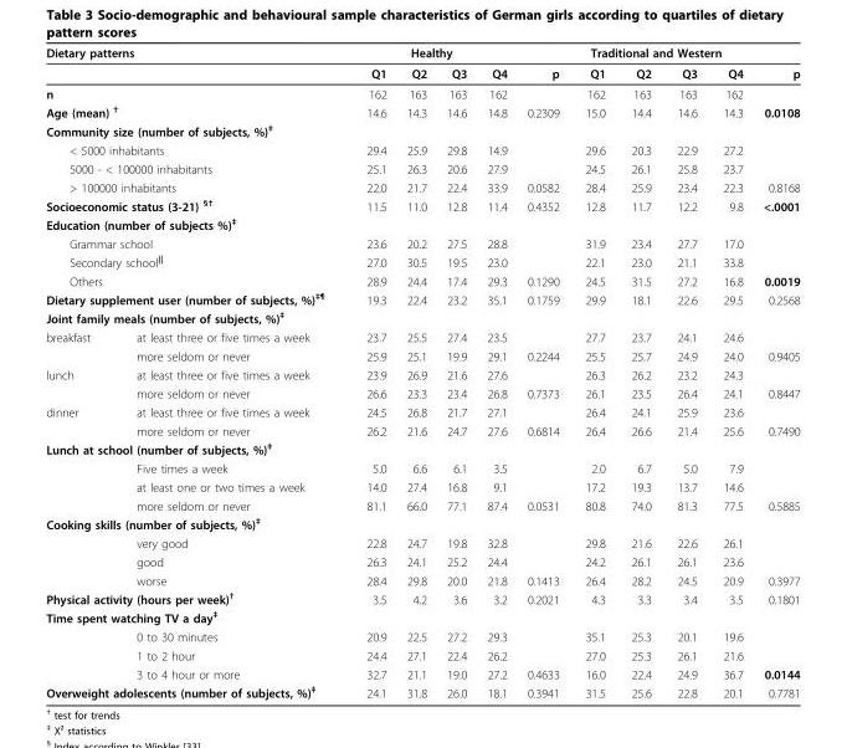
<table><thead><tr><td colspan="2">Dietary patterns</td><td colspan="4">Healthy</td><td></td><td colspan="4">Traditional and Western</td><td></td></tr></thead><tbody><tr><td colspan="2"></td><td>Q1</td><td>Q2</td><td>Q3</td><td>Q4</td><td>p</td><td>Q1</td><td>Q2</td><td>Q3</td><td>Q4</td><td>p</td></tr><tr><td colspan="2">n</td><td>162</td><td>163</td><td>163</td><td>162</td><td></td><td>162</td><td>163</td><td>163</td><td>162</td><td></td></tr><tr><td colspan="2">Age (mean) <sup>†</sup></td><td>14.6</td><td>14.3</td><td>14.6</td><td>14.8</td><td>0.2309</td><td>15.0</td><td>14.4</td><td>14.6</td><td>14.3</td><td>0.0108</td></tr><tr><td colspan="12">Community size (number of subjects, %)<sup>‡</sup></td></tr><tr><td colspan="2">&lt; 5000 inhabitants</td><td>29.4</td><td>25.9</td><td>29.8</td><td>14.9</td><td></td><td>29.6</td><td>20.3</td><td>22.9</td><td>27.2</td><td></td></tr><tr><td colspan="2">5000 - &lt; 100000 inhabitants</td><td>25.1</td><td>26.3</td><td>20.6</td><td>27.9</td><td></td><td>24.5</td><td>26.1</td><td>25.8</td><td>23.7</td><td></td></tr><tr><td colspan="2">&gt; 100000 inhabitants</td><td>22.0</td><td>21.7</td><td>22.4</td><td>33.9</td><td>0.0582</td><td>28.4</td><td>25.9</td><td>23.4</td><td>22.3</td><td>0.8168</td></tr><tr><td colspan="2">Socioeconomic status (3-21) <sup>§†</sup></td><td>11.5</td><td>11.0</td><td>12.8</td><td>11.4</td><td>0.4352</td><td>12.8</td><td>11.7</td><td>12.2</td><td>9.8</td><td>&lt;.0001</td></tr><tr><td colspan="12">Education (number of subjects %)<sup>‡</sup></td></tr><tr><td colspan="2">Grammar school</td><td>23.6</td><td>20.2</td><td>27.5</td><td>28.8</td><td></td><td>31.9</td><td>23.4</td><td>27.7</td><td>17.0</td><td></td></tr><tr><td colspan="2">Secondary school<sup>||</sup></td><td>27.0</td><td>30.5</td><td>19.5</td><td>23.0</td><td></td><td>22.1</td><td>23.0</td><td>21.1</td><td>33.8</td><td></td></tr><tr><td colspan="2">Others</td><td>28.9</td><td>24.4</td><td>17.4</td><td>29.3</td><td>0.1290</td><td>24.5</td><td>31.5</td><td>27.2</td><td>16.8</td><td>0.0019</td></tr><tr><td colspan="2">Dietary supplement user (number of subjects, %)<sup>‡¶</sup></td><td>19.3</td><td>22.4</td><td>23.2</td><td>35.1</td><td>0.1759</td><td>29.9</td><td>18.1</td><td>22.6</td><td>29.5</td><td>0.2568</td></tr><tr><td colspan="12">Joint family meals (number of subjects, %)<sup>‡</sup></td></tr><tr><td rowspan="2">breakfast</td><td>at least three or five times a week</td><td>23.7</td><td>25.5</td><td>27.4</td><td>23.5</td><td></td><td>27.7</td><td>23.7</td><td>24.1</td><td>24.6</td><td></td></tr><tr><td>more seldom or never</td><td>25.9</td><td>25.1</td><td>19.9</td><td>29.1</td><td>0.2244</td><td>25.5</td><td>25.7</td><td>24.9</td><td>24.0</td><td>0.9405</td></tr><tr><td rowspan="2">lunch</td><td>at least three or five times a week</td><td>23.9</td><td>26.9</td><td>21.6</td><td>27.6</td><td></td><td>26.3</td><td>26.2</td><td>23.2</td><td>24.3</td><td></td></tr><tr><td>more seldom or never</td><td>26.6</td><td>23.3</td><td>23.4</td><td>26.8</td><td>0.7373</td><td>26.1</td><td>23.5</td><td>26.4</td><td>24.1</td><td>0.8447</td></tr><tr><td rowspan="2">dinner</td><td>at least three or five times a week</td><td>24.5</td><td>26.8</td><td>21.7</td><td>27.1</td><td></td><td>26.4</td><td>24.1</td><td>25.9</td><td>23.6</td><td></td></tr><tr><td>more seldom or never</td><td>26.2</td><td>21.6</td><td>24.7</td><td>27.6</td><td>0.6814</td><td>26.4</td><td>26.6</td><td>21.4</td><td>25.6</td><td>0.7490</td></tr><tr><td colspan="12">Lunch at school (number of subjects, %)<sup>‡</sup></td></tr><tr><td></td><td>Five times a week</td><td>5.0</td><td>6.6</td><td>6.1</td><td>3.5</td><td></td><td>2.0</td><td>6.7</td><td>5.0</td><td>7.9</td><td></td></tr><tr><td></td><td>at least one or two times a week</td><td>14.0</td><td>27.4</td><td>16.8</td><td>9.1</td><td></td><td>17.2</td><td>19.3</td><td>13.7</td><td>14.6</td><td></td></tr><tr><td></td><td>more seldom or never</td><td>81.1</td><td>66.0</td><td>77.1</td><td>87.4</td><td>0.0531</td><td>80.8</td><td>74.0</td><td>81.3</td><td>77.5</td><td>0.5885</td></tr><tr><td colspan="12">Cooking skills (number of subjects, %)<sup>‡</sup></td></tr><tr><td></td><td>very good</td><td>22.8</td><td>24.7</td><td>19.8</td><td>32.8</td><td></td><td>29.8</td><td>21.6</td><td>22.6</td><td>26.1</td><td></td></tr><tr><td></td><td>good</td><td>26.3</td><td>24.1</td><td>25.2</td><td>24.4</td><td></td><td>24.2</td><td>26.1</td><td>26.1</td><td>23.6</td><td></td></tr><tr><td></td><td>worse</td><td>28.4</td><td>29.8</td><td>20.0</td><td>21.8</td><td>0.1413</td><td>26.4</td><td>28.2</td><td>24.5</td><td>20.9</td><td>0.3977</td></tr><tr><td colspan="2">Physical activity (hours per week)<sup>†</sup></td><td>3.5</td><td>4.2</td><td>3.6</td><td>3.2</td><td>0.2021</td><td>4.3</td><td>3.3</td><td>3.4</td><td>3.5</td><td>0.1801</td></tr><tr><td colspan="12">Time spent watching TV a day<sup>‡</sup></td></tr><tr><td></td><td>0 to 30 minutes</td><td>20.9</td><td>22.5</td><td>27.2</td><td>29.3</td><td></td><td>35.1</td><td>25.3</td><td>20.1</td><td>19.6</td><td></td></tr><tr><td></td><td>1 to 2 hour</td><td>24.4</td><td>27.1</td><td>22.4</td><td>26.2</td><td></td><td>27.0</td><td>25.3</td><td>26.1</td><td>21.6</td><td></td></tr><tr><td></td><td>3 to 4 hour or more</td><td>32.7</td><td>21.1</td><td>19.0</td><td>27.2</td><td>0.4633</td><td>16.0</td><td>22.4</td><td>24.9</td><td>36.7</td><td>0.0144</td></tr><tr><td colspan="2">Overweight adolescents (number of subjects, %)<sup>‡</sup></td><td>24.1</td><td>31.8</td><td>26.0</td><td>18.1</td><td>0.3941</td><td>31.5</td><td>25.6</td><td>22.8</td><td>20.1</td><td>0.7781</td></tr></tbody></table>